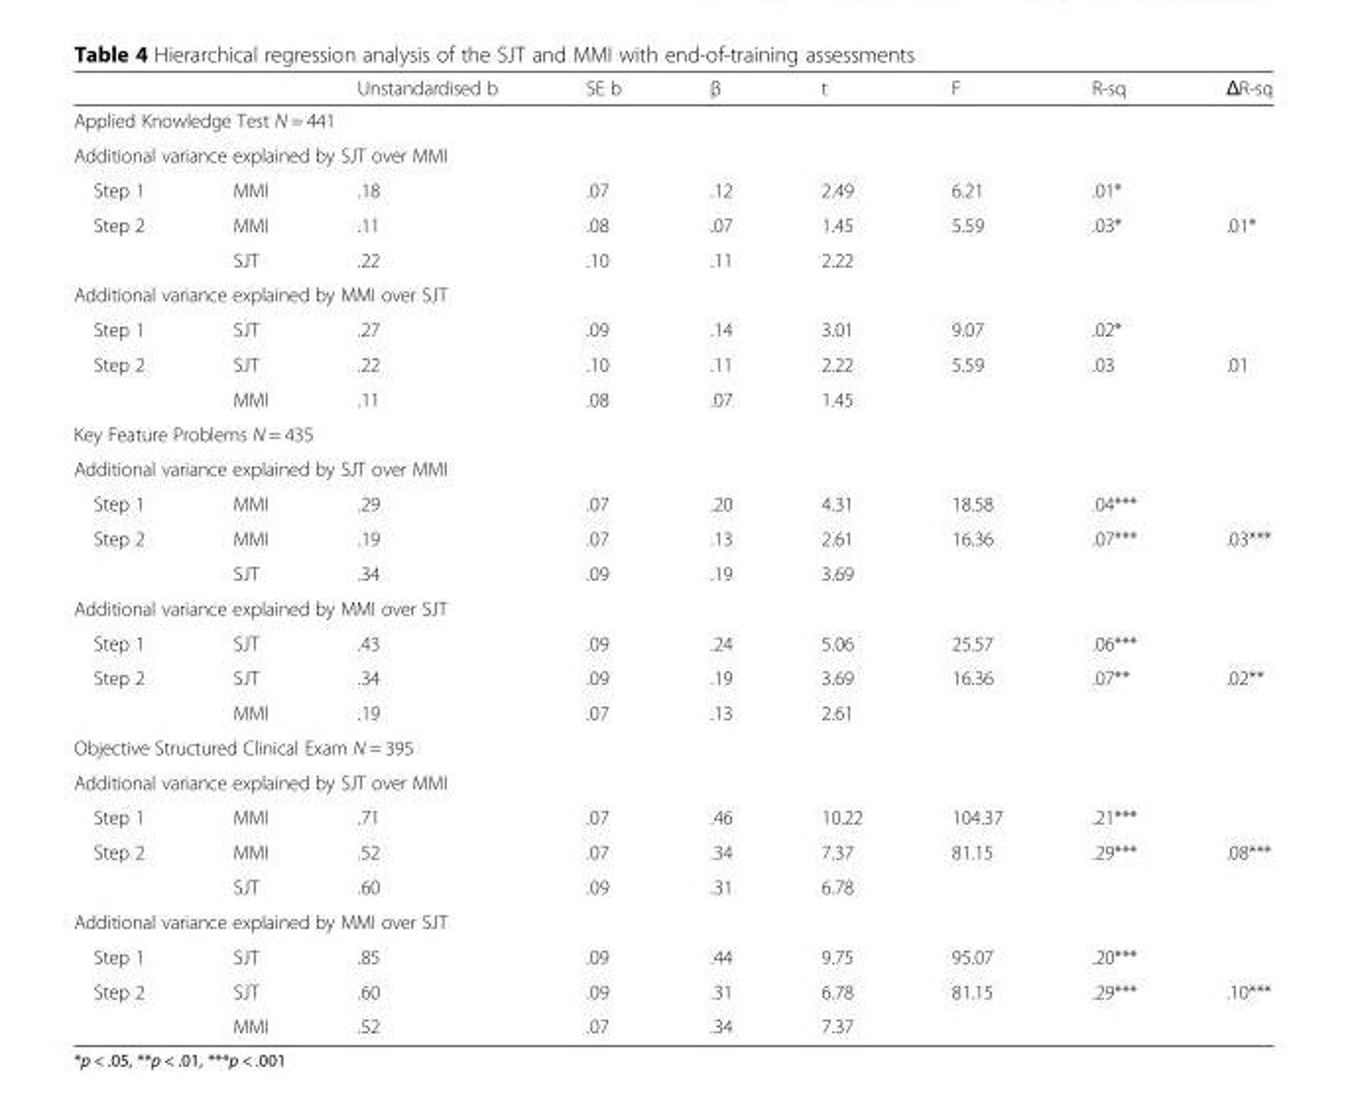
<table><thead><tr><td></td><td></td><td>Unstandardised b</td><td>SE b</td><td>β</td><td>t</td><td>F</td><td>R-sq</td><td>ΔR-sq</td></tr></thead><tbody><tr><td colspan="9">Applied Knowledge Test N = 441</td></tr><tr><td colspan="9">Additional variance explained by SJT over MMI</td></tr><tr><td>Step 1</td><td>MMI</td><td>.18</td><td>.07</td><td>.12</td><td>2.49</td><td>6.21</td><td>.01*</td><td></td></tr><tr><td rowspan="2">Step 2</td><td>MMI</td><td>.11</td><td>.08</td><td>.07</td><td>1.45</td><td>5.59</td><td>.03*</td><td>.01*</td></tr><tr><td>SJT</td><td>.22</td><td>.10</td><td>.11</td><td>2.22</td><td></td><td></td><td></td></tr><tr><td colspan="9">Additional variance explained by MMI over SJT</td></tr><tr><td>Step 1</td><td>SJT</td><td>.27</td><td>.09</td><td>.14</td><td>3.01</td><td>9.07</td><td>.02*</td><td></td></tr><tr><td rowspan="2">Step 2</td><td>SJT</td><td>.22</td><td>.10</td><td>.11</td><td>2.22</td><td>5.59</td><td>.03</td><td>.01</td></tr><tr><td>MMI</td><td>.11</td><td>.08</td><td>.07</td><td>1.45</td><td></td><td></td><td></td></tr><tr><td colspan="9">Key Feature Problems N = 435</td></tr><tr><td colspan="9">Additional variance explained by SJT over MMI</td></tr><tr><td>Step 1</td><td>MMI</td><td>.29</td><td>.07</td><td>.20</td><td>4.31</td><td>18.58</td><td>.04***</td><td></td></tr><tr><td rowspan="2">Step 2</td><td>MMI</td><td>.19</td><td>.07</td><td>.13</td><td>2.61</td><td>16.36</td><td>.07***</td><td>.03***</td></tr><tr><td>SJT</td><td>.34</td><td>.09</td><td>.19</td><td>3.69</td><td></td><td></td><td></td></tr><tr><td colspan="9">Additional variance explained by MMI over SJT</td></tr><tr><td>Step 1</td><td>SJT</td><td>.43</td><td>.09</td><td>.24</td><td>5.06</td><td>25.57</td><td>.06***</td><td></td></tr><tr><td rowspan="2">Step 2</td><td>SJT</td><td>.34</td><td>.09</td><td>.19</td><td>3.69</td><td>16.36</td><td>.07**</td><td>.02**</td></tr><tr><td>MMI</td><td>.19</td><td>.07</td><td>.13</td><td>2.61</td><td></td><td></td><td></td></tr><tr><td colspan="9">Objective Structured Clinical Exam N = 395</td></tr><tr><td colspan="9">Additional variance explained by SJT over MMI</td></tr><tr><td>Step 1</td><td>MMI</td><td>.71</td><td>.07</td><td>.46</td><td>10.22</td><td>104.37</td><td>.21***</td><td></td></tr><tr><td rowspan="2">Step 2</td><td>MMI</td><td>.52</td><td>.07</td><td>.34</td><td>7.37</td><td>81.15</td><td>.29***</td><td>.08***</td></tr><tr><td>SJT</td><td>.60</td><td>.09</td><td>.31</td><td>6.78</td><td></td><td></td><td></td></tr><tr><td colspan="9">Additional variance explained by MMI over SJT</td></tr><tr><td>Step 1</td><td>SJT</td><td>.85</td><td>.09</td><td>.44</td><td>9.75</td><td>95.07</td><td>.20***</td><td></td></tr><tr><td rowspan="2">Step 2</td><td>SJT</td><td>.60</td><td>.09</td><td>.31</td><td>6.78</td><td>81.15</td><td>.29***</td><td>.10***</td></tr><tr><td>MMI</td><td>.52</td><td>.07</td><td>.34</td><td>7.37</td><td></td><td></td><td></td></tr></tbody></table>